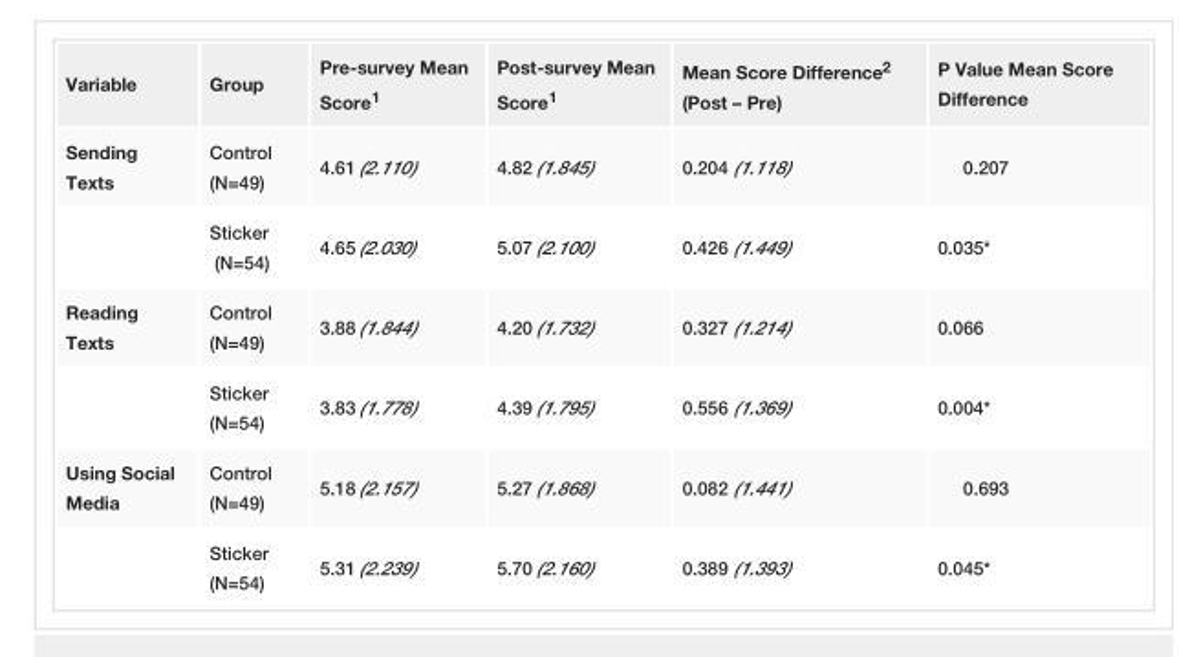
<table><tbody><tr><td>Variable</td><td>Group</td><td>Pre-survey Mean Score<sup>1</sup></td><td>Post-survey Mean Score<sup>1</sup></td><td>Mean Score Difference<sup>2</sup> (Post – Pre)</td><td>P Value Mean Score Difference</td></tr><tr><td rowspan="2">Sending Texts</td><td>Control (N=49)</td><td>4.61 (2.110)</td><td>4.82 (1.845)</td><td>0.204 (1.118)</td><td>0.207</td></tr><tr><td>Sticker (N=54)</td><td>4.65 (2.030)</td><td>5.07 (2.100)</td><td>0.426 (1.449)</td><td>0.035*</td></tr><tr><td rowspan="2">Reading Texts</td><td>Control (N=49)</td><td>3.88 (1.844)</td><td>4.20 (1.732)</td><td>0.327 (1.214)</td><td>0.066</td></tr><tr><td>Sticker (N=54)</td><td>3.83 (1.778)</td><td>4.39 (1.795)</td><td>0.556 (1.369)</td><td>0.004*</td></tr><tr><td rowspan="2">Using Social Media</td><td>Control (N=49)</td><td>5.18 (2.157)</td><td>5.27 (1.868)</td><td>0.082 (1.441)</td><td>0.693</td></tr><tr><td>Sticker (N=54)</td><td>5.31 (2.239)</td><td>5.70 (2.160)</td><td>0.389 (1.393)</td><td>0.045*</td></tr></tbody></table>